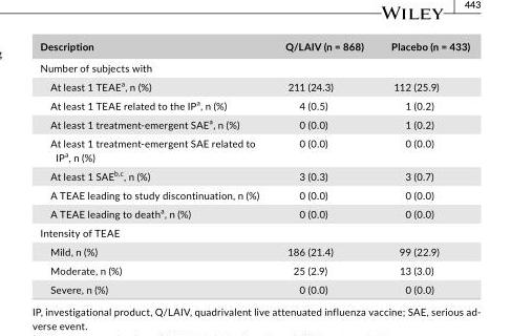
<table><thead><tr><td>Description</td><td>Q/LAIV (n = 868)</td><td>Placebo (n = 433)</td></tr></thead><tbody><tr><td colspan="3">Number of subjects with</td></tr><tr><td>At least 1 TEAE<sup>a</sup>, n (%)</td><td>211 (24.3)</td><td>112 (25.9)</td></tr><tr><td>At least 1 TEAE related to the IP<sup>a</sup>, n (%)</td><td>4 (0.5)</td><td>1 (0.2)</td></tr><tr><td>At least 1 treatment- emergent SAE<sup>a</sup>, n (%)</td><td>0 (0.0)</td><td>1 (0.2)</td></tr><tr><td>At least 1 treatment- emergent SAE related to IP<sup>a</sup>, n (%)</td><td>0 (0.0)</td><td>0 (0.0)</td></tr><tr><td>At least 1 SAE<sup>b,</sup>c, n (%)</td><td>3 (0.3)</td><td>3 (0.7)</td></tr><tr><td>A TEAE leading to study discontinuation, n (%)</td><td>0 (0.0)</td><td>0 (0.0)</td></tr><tr><td>A TEAE leading to death<sup>a</sup>, n (%)</td><td>0 (0.0)</td><td>0 (0.0)</td></tr><tr><td colspan="3">Intensity of TEAE</td></tr><tr><td>Mild, n (%)</td><td>186 (21.4)</td><td>99 (22.9)</td></tr><tr><td>Moderate, n (%)</td><td>25 (2.9)</td><td>13 (3.0)</td></tr><tr><td>Severe, n (%)</td><td>0 (0.0)</td><td>0 (0.0)</td></tr></tbody></table>